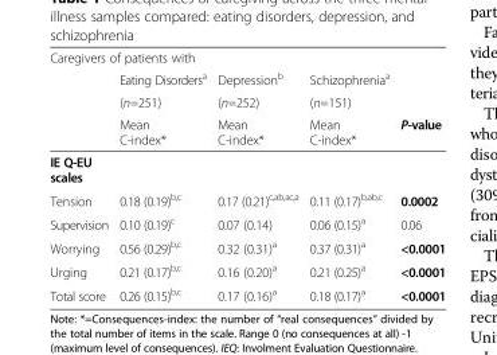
<table><thead><tr><td colspan="5">Caregivers of patients with</td></tr><tr><td rowspan="3"></td><td rowspan="3">Eating Disorders<sup>a</sup> (n=251) Mean C-index*</td><td rowspan="3">Depression<sup>b</sup> (n=252) Mean C-index*</td><td rowspan="3">Schizophrenia<sup>a</sup> (n=151) Mean C-index*</td><td rowspan="3">P-value</td></tr><tr></tr><tr></tr></thead><tbody><tr><td colspan="5">IE Q-EU scales</td></tr><tr><td>Tension</td><td>0.18 (0.19)<sup>b,c</sup></td><td>0.17 (0.21)<sup>c,ab,ac,a</sup></td><td>0.11 (0.17)<sup>b,ab,c</sup></td><td>0.0002</td></tr><tr><td>Supervision</td><td>0.10 (0.19)<sup>c</sup></td><td>0.07 (0.14)</td><td>0.06 (0.15)<sup>a</sup></td><td>0.06</td></tr><tr><td>Worrying</td><td>0.56 (0.29)<sup>b,c</sup></td><td>0.32 (0.31)<sup>a</sup></td><td>0.37 (0.31)<sup>a</sup></td><td>&lt;0.0001</td></tr><tr><td>Urging</td><td>0.21 (0.17)<sup>b,c</sup></td><td>0.16 (0.20)<sup>a</sup></td><td>0.21 (0.25)<sup>a</sup></td><td>&lt;0.0001</td></tr><tr><td>Total score</td><td>0.26 (0.15)<sup>b,c</sup></td><td>0.17 (0.16)<sup>a</sup></td><td>0.18 (0.17)<sup>a</sup></td><td>&lt;0.0001</td></tr></tbody></table>